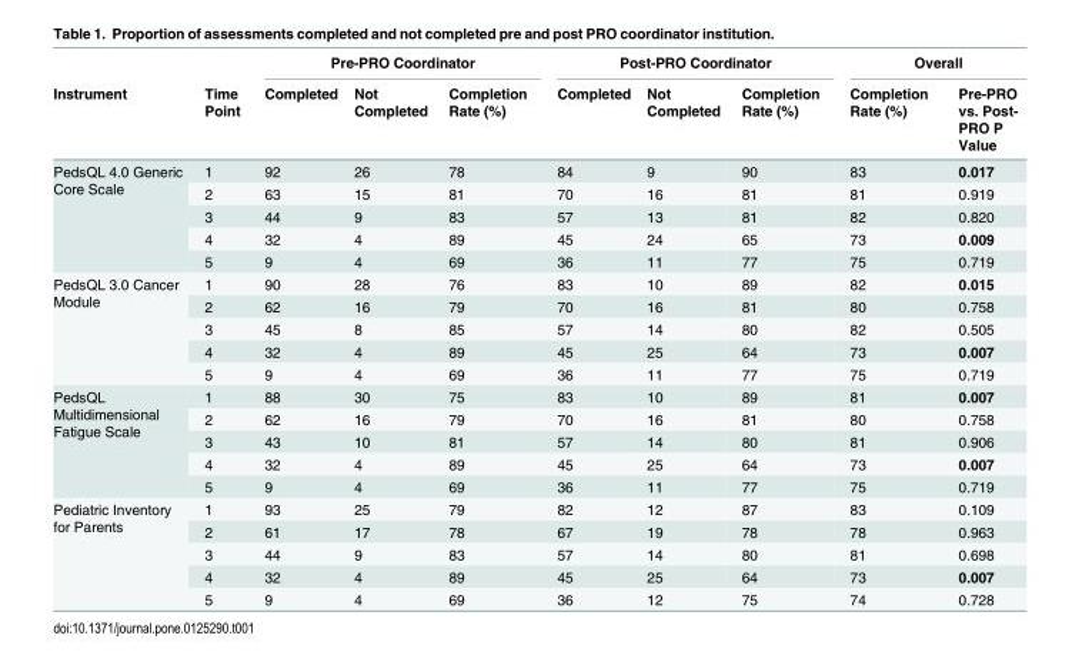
<table><thead><tr><td rowspan="2">Instrument</td><td rowspan="2">Time Point</td><td colspan="3">Pre-PRO Coordinator</td><td colspan="3">Post-PRO Coordinator</td><td colspan="2">Overall</td></tr><tr><td>Completed</td><td>Not Completed</td><td>Completion Rate (%)</td><td>Completed</td><td>Not Completed</td><td>Completion Rate (%)</td><td>Completion Rate (%)</td><td>Pre-PRO vs. Post- PRO P Value</td></tr></thead><tbody><tr><td rowspan="5">PedsQL 4.0 Generic Core Scale</td><td>1</td><td>92</td><td>26</td><td>78</td><td>84</td><td>9</td><td>90</td><td>83</td><td>0.017</td></tr><tr><td>2</td><td>63</td><td>15</td><td>81</td><td>70</td><td>16</td><td>81</td><td>81</td><td>0.919</td></tr><tr><td>3</td><td>44</td><td>9</td><td>83</td><td>57</td><td>13</td><td>81</td><td>82</td><td>0.820</td></tr><tr><td>4</td><td>32</td><td>4</td><td>89</td><td>45</td><td>24</td><td>65</td><td>73</td><td>0.009</td></tr><tr><td>5</td><td>9</td><td>4</td><td>69</td><td>36</td><td>11</td><td>77</td><td>75</td><td>0.719</td></tr><tr><td rowspan="5">PedsQL 3.0 Cancer Module</td><td>1</td><td>90</td><td>28</td><td>76</td><td>83</td><td>10</td><td>89</td><td>82</td><td>0.015</td></tr><tr><td>2</td><td>62</td><td>16</td><td>79</td><td>70</td><td>16</td><td>81</td><td>80</td><td>0.758</td></tr><tr><td>3</td><td>45</td><td>8</td><td>85</td><td>57</td><td>14</td><td>80</td><td>82</td><td>0.505</td></tr><tr><td>4</td><td>32</td><td>4</td><td>89</td><td>45</td><td>25</td><td>64</td><td>73</td><td>0.007</td></tr><tr><td>5</td><td>9</td><td>4</td><td>69</td><td>36</td><td>11</td><td>77</td><td>75</td><td>0.719</td></tr><tr><td rowspan="5">PedsQL Multidimensional Fatigue Scale</td><td>1</td><td>88</td><td>30</td><td>75</td><td>83</td><td>10</td><td>89</td><td>81</td><td>0.007</td></tr><tr><td>2</td><td>62</td><td>16</td><td>79</td><td>70</td><td>16</td><td>81</td><td>80</td><td>0.758</td></tr><tr><td>3</td><td>43</td><td>10</td><td>81</td><td>57</td><td>14</td><td>80</td><td>81</td><td>0.906</td></tr><tr><td>4</td><td>32</td><td>4</td><td>89</td><td>45</td><td>25</td><td>64</td><td>73</td><td>0.007</td></tr><tr><td>5</td><td>9</td><td>4</td><td>69</td><td>36</td><td>11</td><td>77</td><td>75</td><td>0.719</td></tr><tr><td rowspan="5">Pediatric Inventory for Parents</td><td>1</td><td>93</td><td>25</td><td>79</td><td>82</td><td>12</td><td>87</td><td>83</td><td>0.109</td></tr><tr><td>2</td><td>61</td><td>17</td><td>78</td><td>67</td><td>19</td><td>78</td><td>78</td><td>0.963</td></tr><tr><td>3</td><td>44</td><td>9</td><td>83</td><td>57</td><td>14</td><td>80</td><td>81</td><td>0.698</td></tr><tr><td>4</td><td>32</td><td>4</td><td>89</td><td>45</td><td>25</td><td>64</td><td>73</td><td>0.007</td></tr><tr><td>5</td><td>9</td><td>4</td><td>69</td><td>36</td><td>12</td><td>75</td><td>74</td><td>0.728</td></tr></tbody></table>